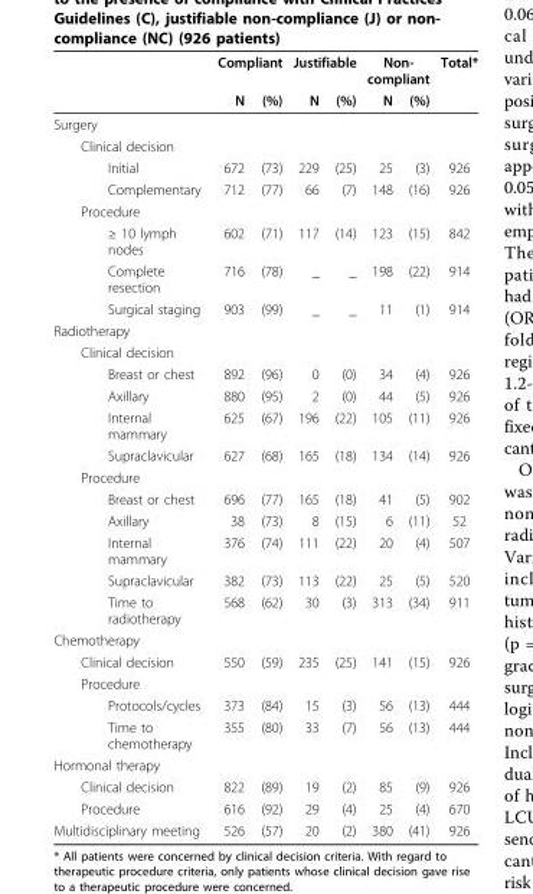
<table><thead><tr><td rowspan="2"></td><td colspan="2">Compliant</td><td colspan="2">Justifiable</td><td colspan="2">Non- compliant</td><td rowspan="2">Total*</td></tr><tr><td>N</td><td>(%)</td><td>N</td><td>(%)</td><td>N</td><td>(%)</td></tr></thead><tbody><tr><td colspan="8">Surgery</td></tr><tr><td colspan="8">Clinical decision</td></tr><tr><td>Initial</td><td>672</td><td>(73)</td><td>229</td><td>(25)</td><td>25</td><td>(3)</td><td>926</td></tr><tr><td>Complementary</td><td>712</td><td>(77)</td><td>66</td><td>(7)</td><td>148</td><td>(16)</td><td>926</td></tr><tr><td colspan="8">Procedure</td></tr><tr><td>≥ 10 lymph nodes</td><td>602</td><td>(71)</td><td>117</td><td>(14)</td><td>123</td><td>(15)</td><td>842</td></tr><tr><td>Complete resection</td><td>716</td><td>(78)</td><td>_</td><td>_</td><td>198</td><td>(22)</td><td>914</td></tr><tr><td>Surgical staging</td><td>903</td><td>(99)</td><td>_</td><td>_</td><td>11</td><td>(1)</td><td>914</td></tr><tr><td colspan="8">Radiotherapy</td></tr><tr><td colspan="8">Clinical decision</td></tr><tr><td>Breast or chest</td><td>892</td><td>(96)</td><td>0</td><td>(0)</td><td>34</td><td>(4)</td><td>926</td></tr><tr><td>Axillary</td><td>880</td><td>(95)</td><td>2</td><td>(0)</td><td>44</td><td>(5)</td><td>926</td></tr><tr><td>Internal mammary</td><td>625</td><td>(67)</td><td>196</td><td>(22)</td><td>105</td><td>(11)</td><td>926</td></tr><tr><td>Supraclavicular</td><td>627</td><td>(68)</td><td>165</td><td>(18)</td><td>134</td><td>(14)</td><td>926</td></tr><tr><td colspan="8">Procedure</td></tr><tr><td>Breast or chest</td><td>696</td><td>(77)</td><td>165</td><td>(18)</td><td>41</td><td>(5)</td><td>902</td></tr><tr><td>Axillary</td><td>38</td><td>(73)</td><td>8</td><td>(15)</td><td>6</td><td>(11)</td><td>52</td></tr><tr><td>Internal mammary</td><td>376</td><td>(74)</td><td>111</td><td>(22)</td><td>20</td><td>(4)</td><td>507</td></tr><tr><td>Supraclavicular</td><td>382</td><td>(73)</td><td>113</td><td>(22)</td><td>25</td><td>(5)</td><td>520</td></tr><tr><td>Time to radiotherapy</td><td>568</td><td>(62)</td><td>30</td><td>(3)</td><td>313</td><td>(34)</td><td>911</td></tr><tr><td colspan="8">Chemotherapy</td></tr><tr><td>Clinical decision</td><td>550</td><td>(59)</td><td>235</td><td>(25)</td><td>141</td><td>(15)</td><td>926</td></tr><tr><td colspan="8">Procedure</td></tr><tr><td>Protocols/cycles</td><td>373</td><td>(84)</td><td>15</td><td>(3)</td><td>56</td><td>(13)</td><td>444</td></tr><tr><td>Time to chemotherapy</td><td>355</td><td>(80)</td><td>33</td><td>(7)</td><td>56</td><td>(13)</td><td>444</td></tr><tr><td colspan="8">Hormonal therapy</td></tr><tr><td>Clinical decision</td><td>822</td><td>(89)</td><td>19</td><td>(2)</td><td>85</td><td>(9)</td><td>926</td></tr><tr><td>Procedure</td><td>616</td><td>(92)</td><td>29</td><td>(4)</td><td>25</td><td>(4)</td><td>670</td></tr><tr><td>Multidisciplinary meeting</td><td>526</td><td>(57)</td><td>20</td><td>(2)</td><td>380</td><td>(41)</td><td>926</td></tr></tbody></table>